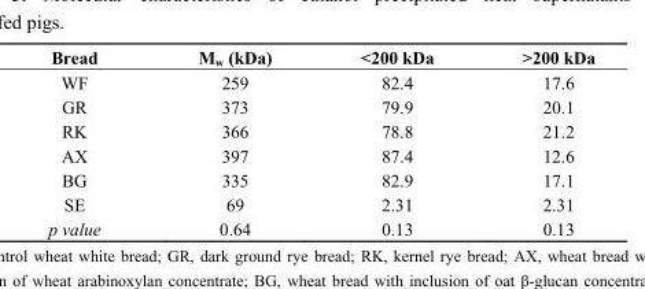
<table><thead><tr><td>Bread</td><td>M<sub>w</sub> (kDa)</td><td>&lt;200 kDa</td><td>&gt;200 kDa</td></tr></thead><tbody><tr><td>WF</td><td>259</td><td>82.4</td><td>17.6</td></tr><tr><td>GR</td><td>373</td><td>79.9</td><td>20.1</td></tr><tr><td>RK</td><td>366</td><td>78.8</td><td>21.2</td></tr><tr><td>AX</td><td>397</td><td>87.4</td><td>12.6</td></tr><tr><td>BG</td><td>335</td><td>82.9</td><td>17.1</td></tr><tr><td>SE</td><td>69</td><td>2.31</td><td>2.31</td></tr><tr><td>p value</td><td>0.64</td><td>0.13</td><td>0.13</td></tr></tbody></table>